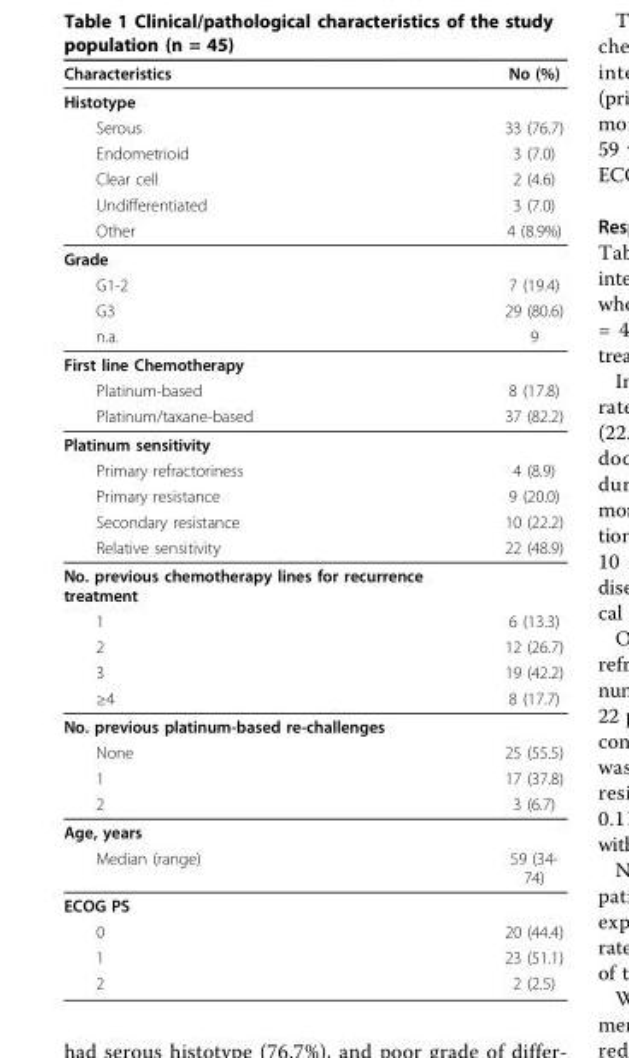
<table><thead><tr><td>Characteristics</td><td>No (%)</td></tr></thead><tbody><tr><td colspan="2">Histotype</td></tr><tr><td>Serous</td><td>33 (76.7)</td></tr><tr><td>Endometrioid</td><td>3 (7.0)</td></tr><tr><td>Clear cell</td><td>2 (4.6)</td></tr><tr><td>Undifferentiated</td><td>3 (7.0)</td></tr><tr><td>Other</td><td>4 (8.9%)</td></tr><tr><td colspan="2">Grade</td></tr><tr><td>G1-2</td><td>7 (19.4)</td></tr><tr><td>G3</td><td>29 (80.6)</td></tr><tr><td>n.a.</td><td>9</td></tr><tr><td colspan="2">First line Chemotherapy</td></tr><tr><td>Platinum-based</td><td>8 (17.8)</td></tr><tr><td>Platinum/taxane-based</td><td>37 (82.2)</td></tr><tr><td colspan="2">Platinum sensitivity</td></tr><tr><td>Primary refractoriness</td><td>4 (8.9)</td></tr><tr><td>Primary resistance</td><td>9 (20.0)</td></tr><tr><td>Secondary resistance</td><td>10 (22.2)</td></tr><tr><td>Relative sensitivity</td><td>22 (48.9)</td></tr><tr><td colspan="2">No. previous chemotherapy lines for recurrence treatment</td></tr><tr><td>1</td><td>6 (13.3)</td></tr><tr><td>2</td><td>12 (26.7)</td></tr><tr><td>3</td><td>19 (42.2)</td></tr><tr><td>≥4</td><td>8 (17.7)</td></tr><tr><td colspan="2">No. previous platinum-based re-challenges</td></tr><tr><td>None</td><td>25 (55.5)</td></tr><tr><td>1</td><td>17 (37.8)</td></tr><tr><td>2</td><td>3 (6.7)</td></tr><tr><td colspan="2">Age, years</td></tr><tr><td>Median (range)</td><td>59 (34- 74)</td></tr><tr><td colspan="2">ECOG PS</td></tr><tr><td>0</td><td>20 (44.4)</td></tr><tr><td>1</td><td>23 (51.1)</td></tr><tr><td>2</td><td>2 (2.5)</td></tr></tbody></table>